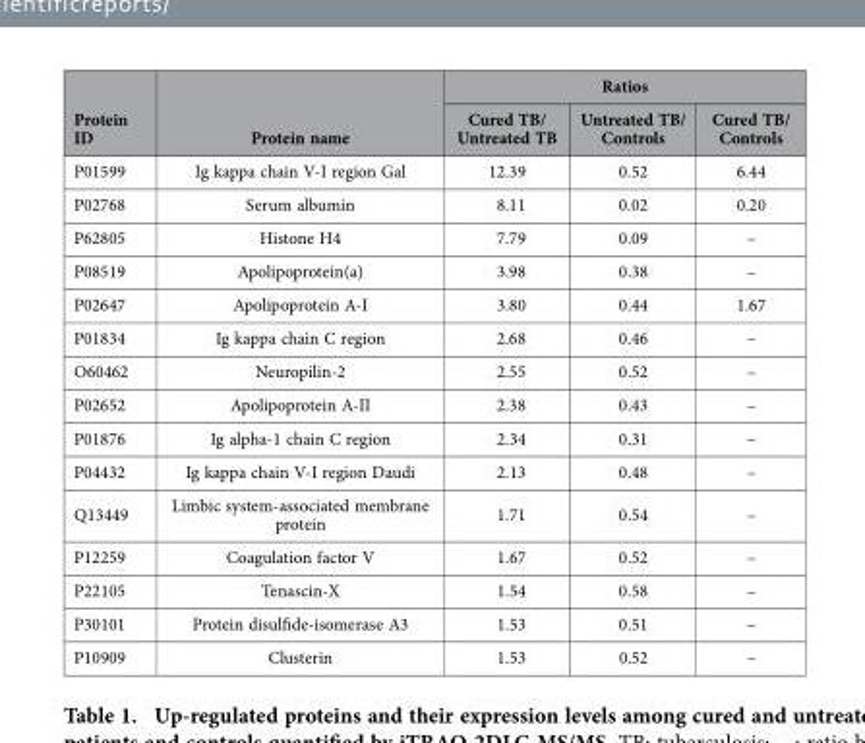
<table><thead><tr><td rowspan="2">Protein ID</td><td rowspan="2">Protein name</td><td colspan="3">Ratios</td></tr><tr><td>Cured TB/ Untreated TB</td><td>Untreated TB/ Controls</td><td>Cured TB/ Controls</td></tr></thead><tbody><tr><td>P01599</td><td>Ig kappa chain V-I region Gal</td><td>12.39</td><td>0.52</td><td>6.44</td></tr><tr><td>P02768</td><td>Serum albumin</td><td>8.11</td><td>0.02</td><td>0.20</td></tr><tr><td>P62805</td><td>Histone H4</td><td>7.79</td><td>0.09</td><td>–</td></tr><tr><td>P08519</td><td>Apolipoprotein(a)</td><td>3.98</td><td>0.38</td><td>–</td></tr><tr><td>P02647</td><td>Apolipoprotein A-I</td><td>3.80</td><td>0.44</td><td>1.67</td></tr><tr><td>P01834</td><td>Ig kappa chain C region</td><td>2.68</td><td>0.46</td><td>–</td></tr><tr><td>O60462</td><td>Neuropilin-2</td><td>2.55</td><td>0.52</td><td>–</td></tr><tr><td>P02652</td><td>Apolipoprotein A-II</td><td>2.38</td><td>0.43</td><td>–</td></tr><tr><td>P01876</td><td>Ig alpha-1 chain C region</td><td>2.34</td><td>0.31</td><td>–</td></tr><tr><td>P04432</td><td>Ig kappa chain V-I region Daudi</td><td>2.13</td><td>0.48</td><td>–</td></tr><tr><td>Q13449</td><td>Limbic system-associated membrane protein</td><td>1.71</td><td>0.54</td><td>–</td></tr><tr><td>P12259</td><td>Coagulation factor V</td><td>1.67</td><td>0.52</td><td>–</td></tr><tr><td>P22105</td><td>Tenascin-X</td><td>1.54</td><td>0.58</td><td>–</td></tr><tr><td>P30101</td><td>Protein disulfide-isomerase A3</td><td>1.53</td><td>0.51</td><td>–</td></tr><tr><td>P10909</td><td>Clusterin</td><td>1.53</td><td>0.52</td><td>–</td></tr></tbody></table>